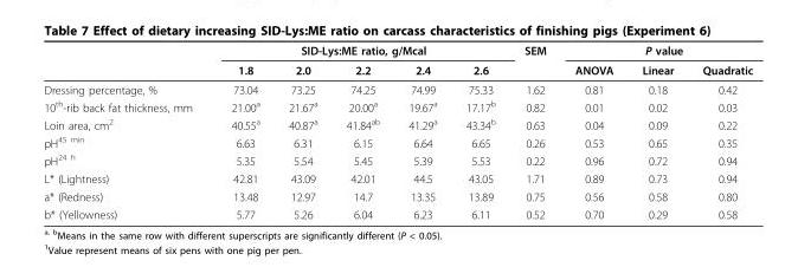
<table><thead><tr><td rowspan="2"></td><td colspan="5">SID-Lys:ME ratio, g/Mcal</td><td rowspan="2">SEM</td><td colspan="3">P value</td></tr><tr><td>1.8</td><td>2.0</td><td>2.2</td><td>2.4</td><td>2.6</td><td>ANOVA</td><td>Linear</td><td>Quadratic</td></tr></thead><tbody><tr><td>Dressing percentage, %</td><td>73.04</td><td>73.25</td><td>74.25</td><td>74.99</td><td>75.33</td><td>1.62</td><td>0.81</td><td>0.18</td><td>0.42</td></tr><tr><td>10<sup>th</sup>-rib back fat thickness, mm</td><td>21.00<sup>a</sup></td><td>21.67<sup>a</sup></td><td>20.00<sup>a</sup></td><td>19.67<sup>a</sup></td><td>17.17<sup>b</sup></td><td>0.82</td><td>0.01</td><td>0.02</td><td>0.03</td></tr><tr><td>Loin area, cm<sup>2</sup></td><td>40.55<sup>a</sup></td><td>40.87<sup>a</sup></td><td>41.84<sup>ab</sup></td><td>41.29<sup>a</sup></td><td>43.34<sup>b</sup></td><td>0.63</td><td>0.04</td><td>0.09</td><td>0.22</td></tr><tr><td>pH<sup>45 min</sup></td><td>6.63</td><td>6.31</td><td>6.15</td><td>6.64</td><td>6.65</td><td>0.26</td><td>0.53</td><td>0.65</td><td>0.35</td></tr><tr><td>pH<sup>24 h</sup></td><td>5.35</td><td>5.54</td><td>5.45</td><td>5.39</td><td>5.53</td><td>0.22</td><td>0.96</td><td>0.72</td><td>0.94</td></tr><tr><td>L* (Lightness)</td><td>42.81</td><td>43.09</td><td>42.01</td><td>44.5</td><td>43.05</td><td>1.71</td><td>0.89</td><td>0.73</td><td>0.94</td></tr><tr><td>a* (Redness)</td><td>13.48</td><td>12.97</td><td>14.7</td><td>13.35</td><td>13.89</td><td>0.75</td><td>0.56</td><td>0.58</td><td>0.80</td></tr><tr><td>b* (Yellowness)</td><td>5.77</td><td>5.26</td><td>6.04</td><td>6.23</td><td>6.11</td><td>0.52</td><td>0.70</td><td>0.29</td><td>0.58</td></tr></tbody></table>